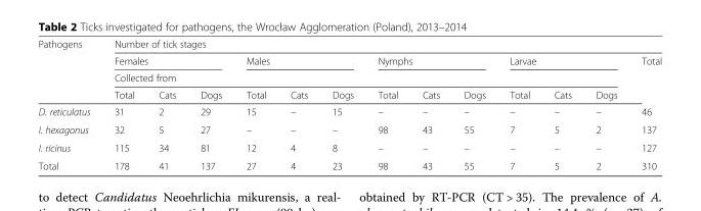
<table><thead><tr><td rowspan="4">Pathogens</td><td colspan="13">Number of tick stages</td></tr><tr><td colspan="3">Females</td><td colspan="3">Males</td><td colspan="3">Nymphs</td><td colspan="3">Larvae</td><td rowspan="3">Total</td></tr><tr><td colspan="12">Collected from</td></tr><tr><td>Total</td><td>Cats</td><td>Dogs</td><td>Total</td><td>Cats</td><td>Dogs</td><td>Total</td><td>Cats</td><td>Dogs</td><td>Total</td><td>Cats</td><td>Dogs</td></tr></thead><tbody><tr><td>D. reticulatus</td><td>31</td><td>2</td><td>29</td><td>15</td><td>–</td><td>15</td><td>–</td><td>–</td><td>–</td><td>–</td><td>–</td><td>–</td><td>46</td></tr><tr><td>I. hexagonus</td><td>32</td><td>5</td><td>27</td><td>–</td><td>–</td><td>–</td><td>98</td><td>43</td><td>55</td><td>7</td><td>5</td><td>2</td><td>137</td></tr><tr><td>I. ricinus</td><td>115</td><td>34</td><td>81</td><td>12</td><td>4</td><td>8</td><td>–</td><td>–</td><td>–</td><td>–</td><td>–</td><td>–</td><td>127</td></tr><tr><td>Total</td><td>178</td><td>41</td><td>137</td><td>27</td><td>4</td><td>23</td><td>98</td><td>43</td><td>55</td><td>7</td><td>5</td><td>2</td><td>310</td></tr></tbody></table>